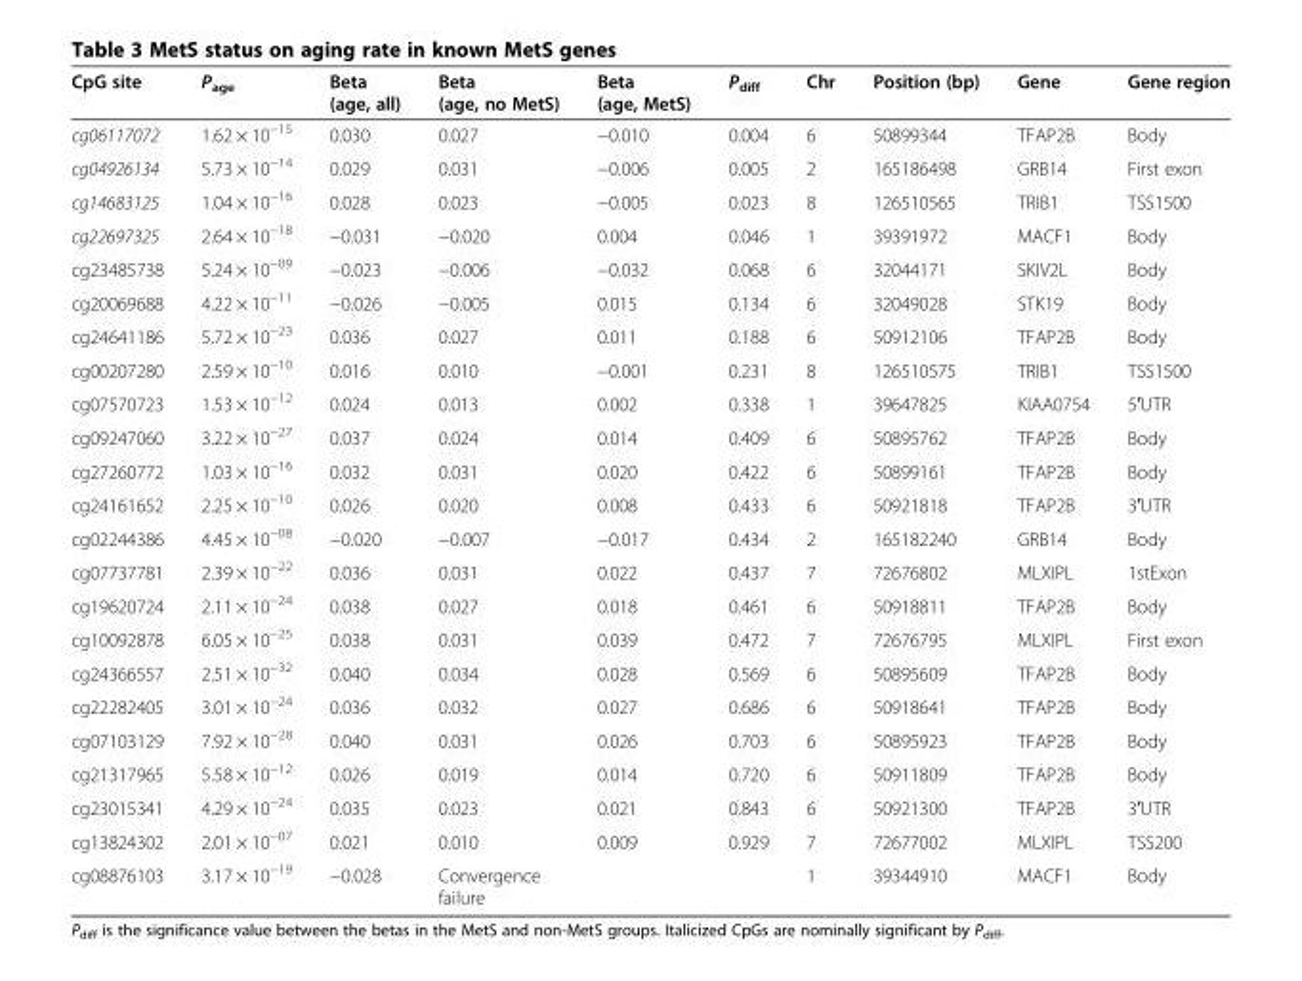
<table><thead><tr><td>CpG site</td><td>P<sub>age</sub></td><td>Beta (age, all)</td><td>Beta (age, no MetS)</td><td>Beta (age, MetS)</td><td>P<sub>diff</sub></td><td>Chr</td><td>Position (bp)</td><td>Gene</td><td>Gene region</td></tr></thead><tbody><tr><td>cg06117072</td><td>1.62 × 10<sup>−15</sup></td><td>0.030</td><td>0.027</td><td>−0.010</td><td>0.004</td><td>6</td><td>50899344</td><td>TFAP2B</td><td>Body</td></tr><tr><td>cg04926134</td><td>5.73 × 10<sup>−14</sup></td><td>0.029</td><td>0.031</td><td>−0.006</td><td>0.005</td><td>2</td><td>165186498</td><td>GRB14</td><td>First exon</td></tr><tr><td>cg14683125</td><td>1.04 × 10<sup>−16</sup></td><td>0.028</td><td>0.023</td><td>−0.005</td><td>0.023</td><td>8</td><td>126510565</td><td>TRIB1</td><td>TSS1500</td></tr><tr><td>cg22697325</td><td>2.64 × 10<sup>−18</sup></td><td>−0.031</td><td>−0.020</td><td>0.004</td><td>0.046</td><td>1</td><td>39391972</td><td>MACF1</td><td>Body</td></tr><tr><td>cg23485738</td><td>5.24 × 10<sup>−09</sup></td><td>−0.023</td><td>−0.006</td><td>−0.032</td><td>0.068</td><td>6</td><td>32044171</td><td>SKIV2L</td><td>Body</td></tr><tr><td>cg20069688</td><td>4.22 × 10<sup>−11</sup></td><td>−0.026</td><td>−0.005</td><td>0.015</td><td>0.134</td><td>6</td><td>32049028</td><td>STK19</td><td>Body</td></tr><tr><td>cg24641186</td><td>5.72 × 10<sup>−23</sup></td><td>0.036</td><td>0.027</td><td>0.011</td><td>0.188</td><td>6</td><td>50912106</td><td>TFAP2B</td><td>Body</td></tr><tr><td>cg00207280</td><td>2.59 × 10<sup>−10</sup></td><td>0.016</td><td>0.010</td><td>−0.001</td><td>0.231</td><td>8</td><td>126510575</td><td>TRIB1</td><td>TSS1500</td></tr><tr><td>cg07570723</td><td>1.53 × 10<sup>−12</sup></td><td>0.024</td><td>0.013</td><td>0.002</td><td>0.338</td><td>1</td><td>39647825</td><td>KIAA0754</td><td>5′UTR</td></tr><tr><td>cg09247060</td><td>3.22 × 10<sup>−27</sup></td><td>0.037</td><td>0.024</td><td>0.014</td><td>0.409</td><td>6</td><td>50895762</td><td>TFAP2B</td><td>Body</td></tr><tr><td>cg27260772</td><td>1.03 × 10<sup>−16</sup></td><td>0.032</td><td>0.031</td><td>0.020</td><td>0.422</td><td>6</td><td>50899161</td><td>TFAP2B</td><td>Body</td></tr><tr><td>cg24161652</td><td>2.25 × 10<sup>−10</sup></td><td>0.026</td><td>0.020</td><td>0.008</td><td>0.433</td><td>6</td><td>50921818</td><td>TFAP2B</td><td>3′UTR</td></tr><tr><td>cg02244386</td><td>4.45 × 10<sup>−08</sup></td><td>−0.020</td><td>−0.007</td><td>−0.017</td><td>0.434</td><td>2</td><td>165182240</td><td>GRB14</td><td>Body</td></tr><tr><td>cg07737781</td><td>2.39 × 10<sup>−22</sup></td><td>0.036</td><td>0.031</td><td>0.022</td><td>0.437</td><td>7</td><td>72676802</td><td>MLXIPL</td><td>1stExon</td></tr><tr><td>cg19620724</td><td>2.11 × 10<sup>−24</sup></td><td>0.038</td><td>0.027</td><td>0.018</td><td>0.461</td><td>6</td><td>50918811</td><td>TFAP2B</td><td>Body</td></tr><tr><td>cg10092878</td><td>6.05 × 10<sup>−25</sup></td><td>0.038</td><td>0.031</td><td>0.039</td><td>0.472</td><td>7</td><td>72676795</td><td>MLXIPL</td><td>First exon</td></tr><tr><td>cg24366557</td><td>2.51 × 10<sup>−32</sup></td><td>0.040</td><td>0.034</td><td>0.028</td><td>0.569</td><td>6</td><td>50895609</td><td>TFAP2B</td><td>Body</td></tr><tr><td>cg22282405</td><td>3.01 × 10<sup>−24</sup></td><td>0.036</td><td>0.032</td><td>0.027</td><td>0.686</td><td>6</td><td>50918641</td><td>TFAP2B</td><td>Body</td></tr><tr><td>cg07103129</td><td>7.92 × 10<sup>−28</sup></td><td>0.040</td><td>0.031</td><td>0.026</td><td>0.703</td><td>6</td><td>50895923</td><td>TFAP2B</td><td>Body</td></tr><tr><td>cg21317965</td><td>5.58 × 10<sup>−12</sup></td><td>0.026</td><td>0.019</td><td>0.014</td><td>0.720</td><td>6</td><td>50911809</td><td>TFAP2B</td><td>Body</td></tr><tr><td>cg23015341</td><td>4.29 × 10<sup>−24</sup></td><td>0.035</td><td>0.023</td><td>0.021</td><td>0.843</td><td>6</td><td>50921300</td><td>TFAP2B</td><td>3′UTR</td></tr><tr><td>cg13824302</td><td>2.01 × 10<sup>−07</sup></td><td>0.021</td><td>0.010</td><td>0.009</td><td>0.929</td><td>7</td><td>72677002</td><td>MLXIPL</td><td>TSS200</td></tr><tr><td>cg08876103</td><td>3.17 × 10<sup>−19</sup></td><td>−0.028</td><td>Convergence failure</td><td></td><td></td><td>1</td><td>39344910</td><td>MACF1</td><td>Body</td></tr></tbody></table>